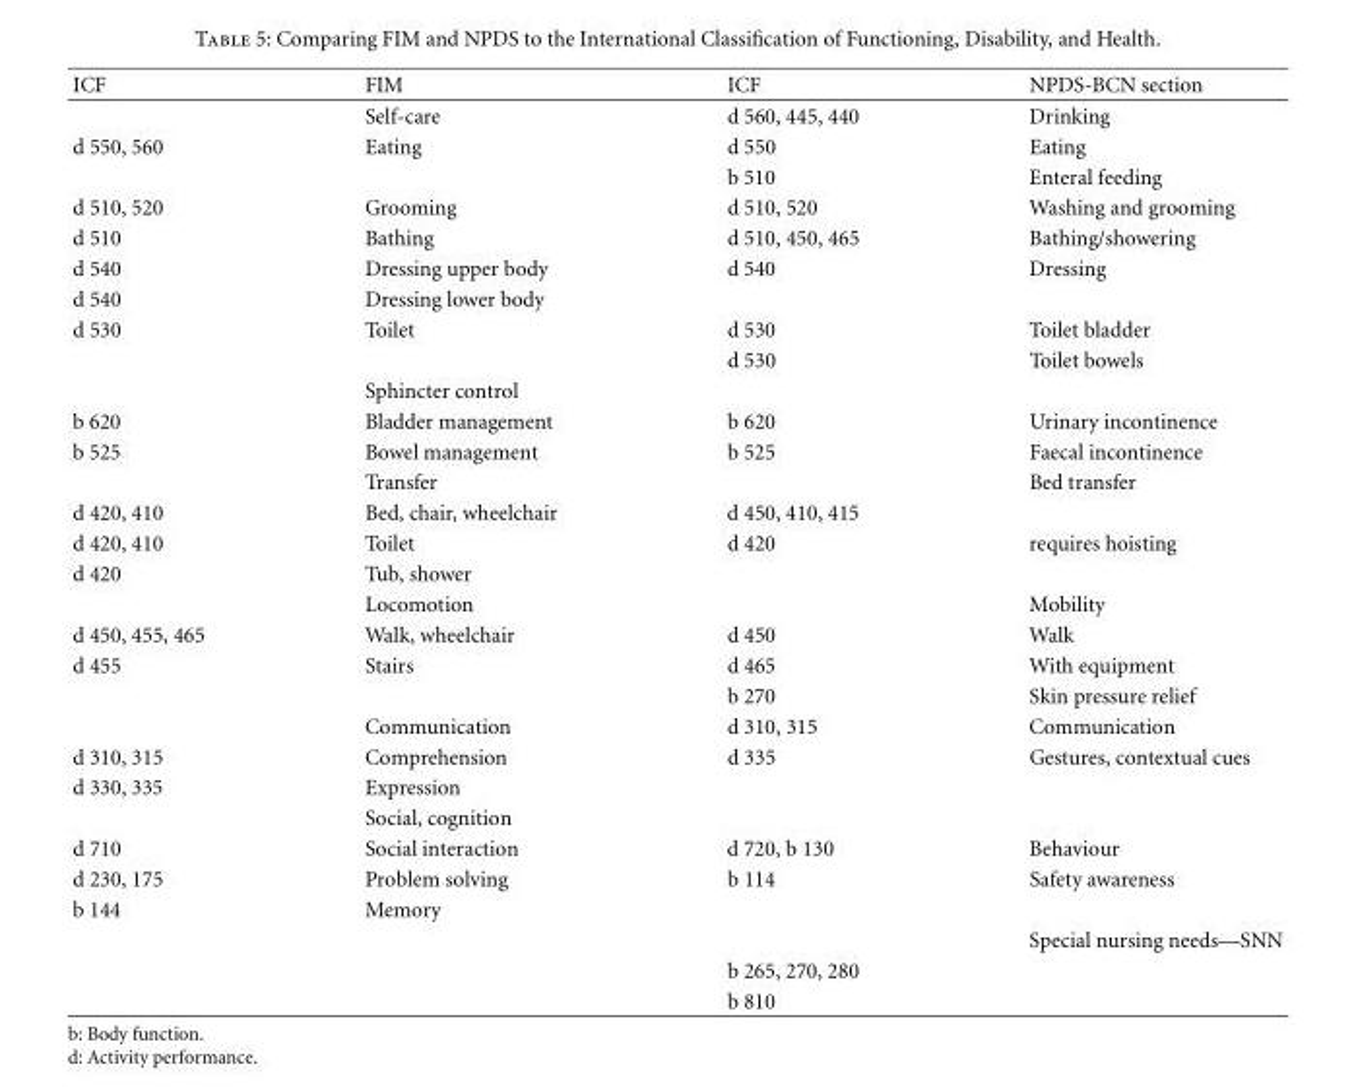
<table><thead><tr><td>ICF</td><td>FIM</td><td>ICF</td><td>NPDS-BCN section</td></tr></thead><tbody><tr><td></td><td>Self-care</td><td>d 560, 445, 440</td><td>Drinking</td></tr><tr><td rowspan="2">d 550, 560</td><td>Eating</td><td>d 550</td><td>Eating</td></tr><tr><td></td><td>b 510</td><td>Enteral feeding</td></tr><tr><td>d 510, 520</td><td>Grooming</td><td>d 510, 520</td><td>Washing and grooming</td></tr><tr><td>d 510</td><td>Bathing</td><td>d 510, 450, 465</td><td>Bathing/showering</td></tr><tr><td>d 540</td><td>Dressing upper body</td><td>d 540</td><td>Dressing</td></tr><tr><td>d 540</td><td>Dressing lower body</td><td></td><td></td></tr><tr><td rowspan="3">d 530</td><td>Toilet</td><td>d 530</td><td>Toilet bladder</td></tr><tr><td></td><td>d 530</td><td>Toilet bowels</td></tr><tr><td>Sphincter control</td><td></td><td></td></tr><tr><td>b 620</td><td>Bladder management</td><td>b 620</td><td>Urinary incontinence</td></tr><tr><td rowspan="2">b 525</td><td>Bowel management</td><td>b 525</td><td>Faecal incontinence</td></tr><tr><td>Transfer</td><td></td><td>Bed transfer</td></tr><tr><td>d 420, 410</td><td>Bed, chair, wheelchair</td><td>d 450, 410, 415</td><td></td></tr><tr><td>d 420, 410</td><td>Toilet</td><td>d 420</td><td>requires hoisting</td></tr><tr><td rowspan="2">d 420</td><td>Tub, shower</td><td></td><td></td></tr><tr><td>Locomotion</td><td></td><td>Mobility</td></tr><tr><td>d 450, 455, 465</td><td>Walk, wheelchair</td><td>d 450</td><td>Walk</td></tr><tr><td rowspan="3">d 455</td><td>Stairs</td><td>d 465</td><td>With equipment</td></tr><tr><td></td><td>b 270</td><td>Skin pressure relief</td></tr><tr><td>Communication</td><td>d 310, 315</td><td>Communication</td></tr><tr><td>d 310, 315</td><td>Comprehension</td><td>d 335</td><td>Gestures, contextual cues</td></tr><tr><td rowspan="2">d 330, 335</td><td>Expression</td><td></td><td></td></tr><tr><td>Social, cognition</td><td></td><td></td></tr><tr><td>d 710</td><td>Social interaction</td><td>d 720, b 130</td><td>Behaviour</td></tr><tr><td>d 230, 175</td><td>Problem solving</td><td>b 114</td><td>Safety awareness</td></tr><tr><td rowspan="4">b 144</td><td>Memory</td><td></td><td></td></tr><tr><td></td><td></td><td>Special nursing needs—SNN</td></tr><tr><td></td><td>b 265, 270, 280</td><td></td></tr><tr><td></td><td>b 810</td><td></td></tr></tbody></table>